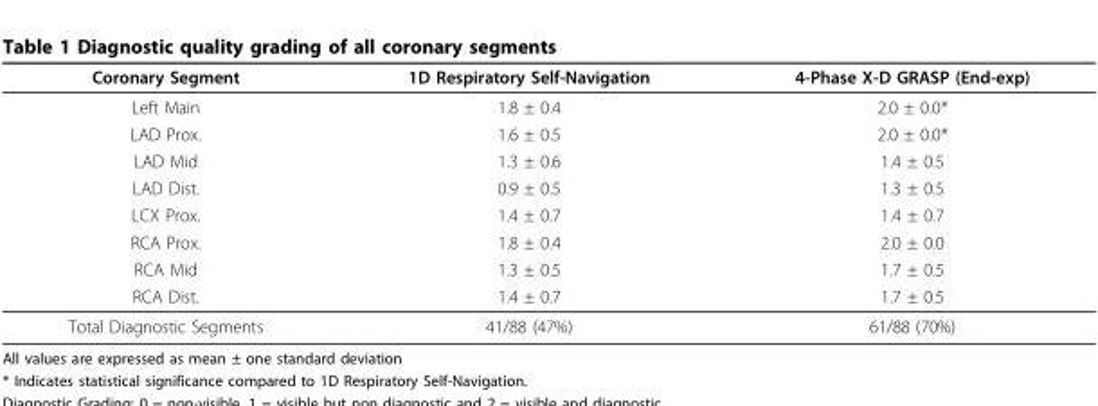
<table><thead><tr><td>Coronary Segment</td><td>1D Respiratory Self-Navigation</td><td>4-Phase X-D GRASP (End-exp)</td></tr></thead><tbody><tr><td>Left Main</td><td>1.8 ± 0.4</td><td>2.0 ± 0.0*</td></tr><tr><td>LAD Prox.</td><td>1.6 ± 0.5</td><td>2.0 ± 0.0*</td></tr><tr><td>LAD Mid</td><td>1.3 ± 0.6</td><td>1.4 ± 0.5</td></tr><tr><td>LAD Dist.</td><td>0.9 ± 0.5</td><td>1.3 ± 0.5</td></tr><tr><td>LCX Prox.</td><td>1.4 ± 0.7</td><td>1.4 ± 0.7</td></tr><tr><td>RCA Prox.</td><td>1.8 ± 0.4</td><td>2.0 ± 0.0</td></tr><tr><td>RCA Mid</td><td>1.3 ± 0.5</td><td>1.7 ± 0.5</td></tr><tr><td>RCA Dist.</td><td>1.4 ± 0.7</td><td>1.7 ± 0.5</td></tr><tr><td>Total Diagnostic Segments</td><td>41/88 (47%)</td><td>61/88 (70%)</td></tr></tbody></table>